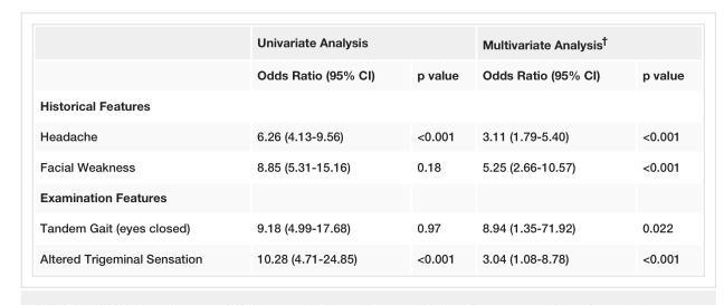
<table><thead><tr><td rowspan="2"></td><td colspan="2">Univariate Analysis</td><td colspan="2">Multivariate Analysis<sup>†</sup></td></tr><tr><td>Odds Ratio (95% CI)</td><td>p value</td><td>Odds Ratio (95% CI)</td><td>p value</td></tr></thead><tbody><tr><td colspan="5">Historical Features</td></tr><tr><td>Headache</td><td>6.26 (4.13-9.56)</td><td>&lt;0.001</td><td>3.11 (1.79-5.40)</td><td>&lt;0.001</td></tr><tr><td>Facial Weakness</td><td>8.85 (5.31-15.16)</td><td>0.18</td><td>5.25 (2.66-10.57)</td><td>&lt;0.001</td></tr><tr><td colspan="5">Examination Features</td></tr><tr><td>Tandem Gait (eyes closed)</td><td>9.18 (4.99-17.68)</td><td>0.97</td><td>8.94 (1.35-71.92)</td><td>0.022</td></tr><tr><td>Altered Trigeminal Sensation</td><td>10.28 (4.71-24.85)</td><td>&lt;0.001</td><td>3.04 (1.08-8.78)</td><td>&lt;0.001</td></tr></tbody></table>